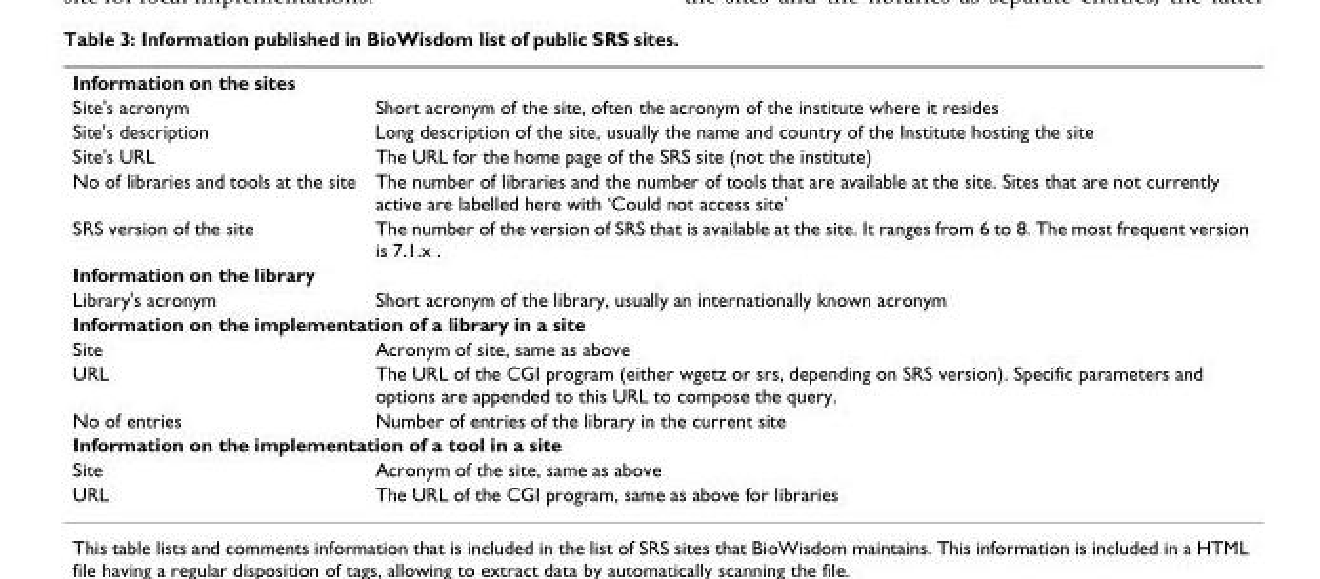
<table><tbody><tr><td colspan="2">Information on the sites</td></tr><tr><td>Site&#x27;s acronym</td><td>Short acronym of the site, often the acronym of the institute where it resides</td></tr><tr><td>Site&#x27;s description</td><td>Long description of the site, usually the name and country of the Institute hosting the site</td></tr><tr><td>Site&#x27;s URL</td><td>The URL for the home page of the SRS site (not the institute)</td></tr><tr><td>No of libraries and tools at the site</td><td>The number of libraries and the number of tools that are available at the site. Sites that are not currently active are labelled here with ‘Could not access site’</td></tr><tr><td>SRS version of the site</td><td>The number of the version of SRS that is available at the site. It ranges from 6 to 8. The most frequent version is 7.1.x .</td></tr><tr><td colspan="2">Information on the library</td></tr><tr><td>Library&#x27;s acronym</td><td>Short acronym of the library, usually an internationally known acronym</td></tr><tr><td colspan="2">Information on the implementation of a library in a site</td></tr><tr><td>Site</td><td>Acronym of site, same as above</td></tr><tr><td>URL</td><td>The URL of the CGI program (either wgetz or srs, depending on SRS version). Specific parameters and options are appended to this URL to compose the query.</td></tr><tr><td>No of entries</td><td>Number of entries of the library in the current site</td></tr><tr><td colspan="2">Information on the implementation of a tool in a site</td></tr><tr><td>Site</td><td>Acronym of the site, same as above</td></tr><tr><td>URL</td><td>The URL of the CGI program, same as above for libraries</td></tr></tbody></table>